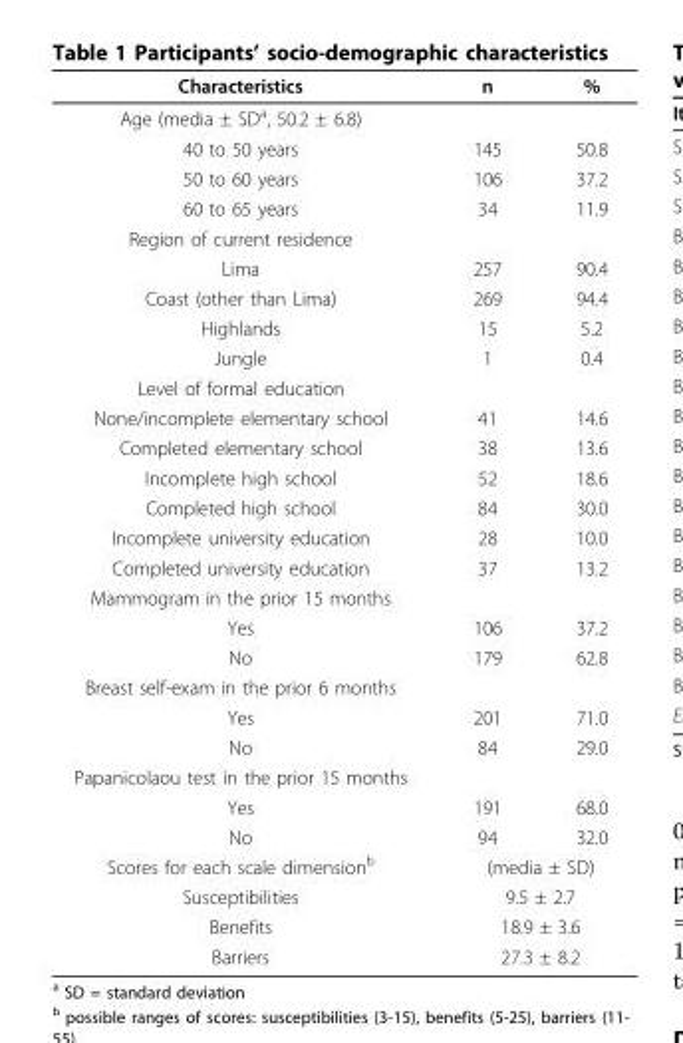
<table><thead><tr><td>Characteristics</td><td>n</td><td>%</td></tr></thead><tbody><tr><td colspan="3">Age (media ± SD<sup>a</sup>, 50.2 ± 6.8)</td></tr><tr><td>40 to 50 years</td><td>145</td><td>50.8</td></tr><tr><td>50 to 60 years</td><td>106</td><td>37.2</td></tr><tr><td>60 to 65 years</td><td>34</td><td>11.9</td></tr><tr><td colspan="3">Region of current residence</td></tr><tr><td>Lima</td><td>257</td><td>90.4</td></tr><tr><td>Coast (other than Lima)</td><td>269</td><td>94.4</td></tr><tr><td>Highlands</td><td>15</td><td>5.2</td></tr><tr><td>Jungle</td><td>1</td><td>0.4</td></tr><tr><td colspan="3">Level of formal education</td></tr><tr><td>None/incomplete elementary school</td><td>41</td><td>14.6</td></tr><tr><td>Completed elementary school</td><td>38</td><td>13.6</td></tr><tr><td>Incomplete high school</td><td>52</td><td>18.6</td></tr><tr><td>Completed high school</td><td>84</td><td>30.0</td></tr><tr><td>Incomplete university education</td><td>28</td><td>10.0</td></tr><tr><td>Completed university education</td><td>37</td><td>13.2</td></tr><tr><td colspan="3">Mammogram in the prior 15 months</td></tr><tr><td>Yes</td><td>106</td><td>37.2</td></tr><tr><td>No</td><td>179</td><td>62.8</td></tr><tr><td colspan="3">Breast self-exam in the prior 6 months</td></tr><tr><td>Yes</td><td>201</td><td>71.0</td></tr><tr><td>No</td><td>84</td><td>29.0</td></tr><tr><td colspan="3">Papanicolaou test in the prior 15 months</td></tr><tr><td>Yes</td><td>191</td><td>68.0</td></tr><tr><td>No</td><td>94</td><td>32.0</td></tr><tr><td>Scores for each scale dimension<sup>b</sup></td><td colspan="2">(media ± SD)</td></tr><tr><td>Susceptibilities</td><td colspan="2">9.5 ± 2.7</td></tr><tr><td>Benefits</td><td colspan="2">18.9 ± 3.6</td></tr><tr><td>Barriers</td><td colspan="2">27.3 ± 8.2</td></tr></tbody></table>